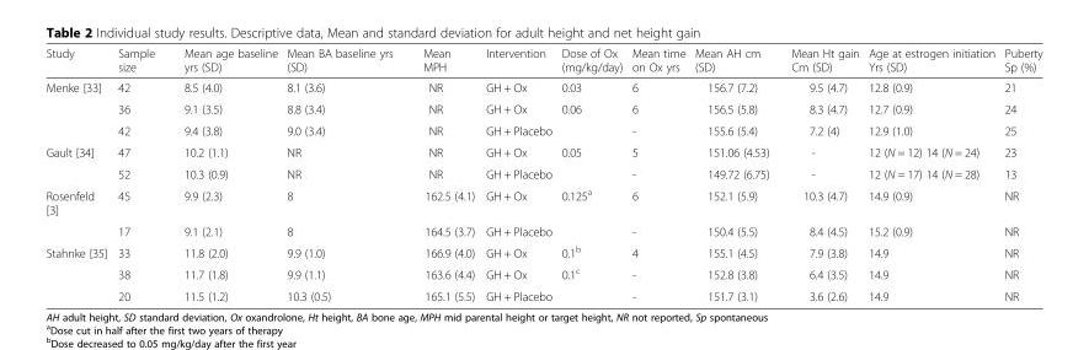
<table><thead><tr><td>Study</td><td>Sample size</td><td>Mean age baseline yrs (SD)</td><td>Mean BA baseline yrs (SD)</td><td>Mean MPH</td><td>Intervention</td><td>Dose of Ox (mg/kg/day)</td><td>Mean time on Ox yrs</td><td>Mean AH cm (SD)</td><td>Mean Ht gain Cm (SD)</td><td>Age at estrogen initiation Yrs (SD)</td><td>Puberty Sp (%)</td></tr></thead><tbody><tr><td rowspan="3">Menke [33]</td><td>42</td><td>8.5 (4.0)</td><td>8.1 (3.6)</td><td>NR</td><td>GH + Ox</td><td>0.03</td><td>6</td><td>156.7 (7.2)</td><td>9.5 (4.7)</td><td>12.8 (0.9)</td><td>21</td></tr><tr><td>36</td><td>9.1 (3.5)</td><td>8.8 (3.4)</td><td>NR</td><td>GH + Ox</td><td>0.06</td><td>6</td><td>156.5 (5.8)</td><td>8.3 (4.7)</td><td>12.7 (0.9)</td><td>24</td></tr><tr><td>42</td><td>9.4 (3.8)</td><td>9.0 (3.4)</td><td>NR</td><td>GH + Placebo</td><td></td><td>-</td><td>155.6 (5.4)</td><td>7.2 (4)</td><td>12.9 (1.0)</td><td>25</td></tr><tr><td rowspan="2">Gault [34]</td><td>47</td><td>10.2 (1.1)</td><td>NR</td><td>NR</td><td>GH + Ox</td><td>0.05</td><td>5</td><td>151.06 (4.53)</td><td>-</td><td>12 (N = 12) 14 (N = 24)</td><td>23</td></tr><tr><td>52</td><td>10.3 (0.9)</td><td>NR</td><td>NR</td><td>GH + Placebo</td><td></td><td>-</td><td>149.72 (6.75)</td><td>-</td><td>12 (N = 17) 14 (N = 28)</td><td>13</td></tr><tr><td rowspan="2">Rosenfeld [3]</td><td>45</td><td>9.9 (2.3)</td><td>8</td><td>162.5 (4.1)</td><td>GH + Ox</td><td>0.125<sup>a</sup></td><td>6</td><td>152.1 (5.9)</td><td>10.3 (4.7)</td><td>14.9 (0.9)</td><td>NR</td></tr><tr><td>17</td><td>9.1 (2.1)</td><td>8</td><td>164.5 (3.7)</td><td>GH + Placebo</td><td></td><td>-</td><td>150.4 (5.5)</td><td>8.4 (4.5)</td><td>15.2 (0.9)</td><td>NR</td></tr><tr><td rowspan="3">Stahnke [35]</td><td>33</td><td>11.8 (2.0)</td><td>9.9 (1.0)</td><td>166.9 (4.0)</td><td>GH + Ox</td><td>0.1<sup>b</sup></td><td>4</td><td>155.1 (4.5)</td><td>7.9 (3.8)</td><td>14.9</td><td>NR</td></tr><tr><td>38</td><td>11.7 (1.8)</td><td>9.9 (1.1)</td><td>163.6 (4.4)</td><td>GH + Ox</td><td>0.1<sup>c</sup></td><td>-</td><td>152.8 (3.8)</td><td>6.4 (3.5)</td><td>14.9</td><td>NR</td></tr><tr><td>20</td><td>11.5 (1.2)</td><td>10.3 (0.5)</td><td>165.1 (5.5)</td><td>GH + Placebo</td><td></td><td>-</td><td>151.7 (3.1)</td><td>3.6 (2.6)</td><td>14.9</td><td>NR</td></tr></tbody></table>